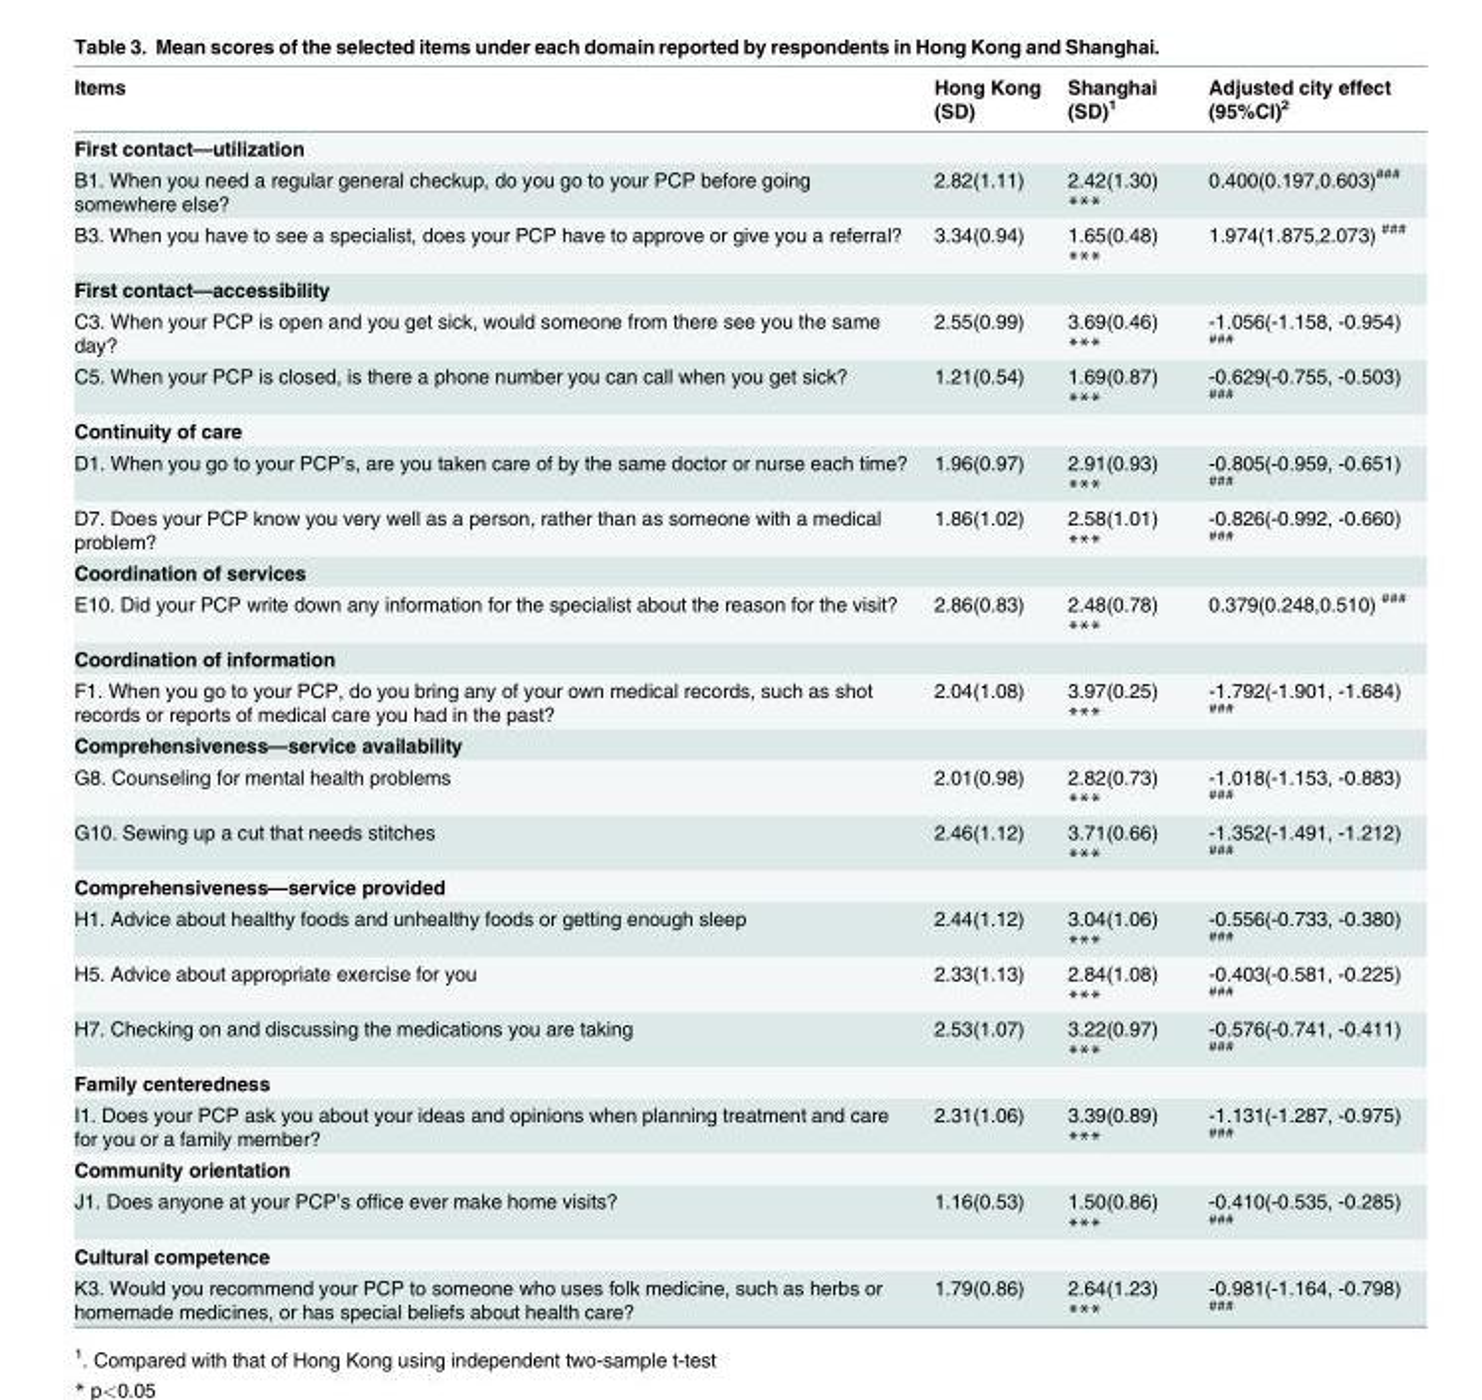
<table><thead><tr><td>Items</td><td>Hong Kong (SD)</td><td>Shanghai (SD)<sup>1</sup></td><td>Adjusted city effect (95%CI)<sup>2</sup></td></tr></thead><tbody><tr><td colspan="4">First contact—utilization</td></tr><tr><td>B1. When you need a regular general checkup, do you go to your PCP before going somewhere else?</td><td>2.82(1.11)</td><td>2.42(1.30) ***</td><td>0.400(0.197,0.603)<sup>###</sup></td></tr><tr><td>B3. When you have to see a specialist, does your PCP have to approve or give you a referral?</td><td>3.34(0.94)</td><td>1.65(0.48) ***</td><td>1.974(1.875,2.073) <sup>###</sup></td></tr><tr><td colspan="4">First contact—accessibility</td></tr><tr><td>C3. When your PCP is open and you get sick, would someone from there see you the same day?</td><td>2.55(0.99)</td><td>3.69(0.46) ***</td><td>-1.056(-1.158, -0.954) <sup>###</sup></td></tr><tr><td>C5. When your PCP is closed, is there a phone number you can call when you get sick?</td><td>1.21(0.54)</td><td>1.69(0.87) ***</td><td>-0.629(-0.755, -0.503) <sup>###</sup></td></tr><tr><td colspan="4">Continuity of care</td></tr><tr><td>D1. When you go to your PCP’s, are you taken care of by the same doctor or nurse each time?</td><td>1.96(0.97)</td><td>2.91(0.93) ***</td><td>-0.805(-0.959, -0.651) <sup>###</sup></td></tr><tr><td>D7. Does your PCP know you very well as a person, rather than as someone with a medical problem?</td><td>1.86(1.02)</td><td>2.58(1.01) ***</td><td>-0.826(-0.992, -0.660) <sup>###</sup></td></tr><tr><td colspan="4">Coordination of services</td></tr><tr><td>E10. Did your PCP write down any information for the specialist about the reason for the visit?</td><td>2.86(0.83)</td><td>2.48(0.78) ***</td><td>0.379(0.248,0.510) <sup>###</sup></td></tr><tr><td colspan="4">Coordination of information</td></tr><tr><td>F1. When you go to your PCP, do you bring any of your own medical records, such as shot records or reports of medical care you had in the past?</td><td>2.04(1.08)</td><td>3.97(0.25) ***</td><td>-1.792(-1.901, -1.684) <sup>###</sup></td></tr><tr><td colspan="4">Comprehensiveness—service availability</td></tr><tr><td>G8. Counseling for mental health problems</td><td>2.01(0.98)</td><td>2.82(0.73) ***</td><td>-1.018(-1.153, -0.883) <sup>###</sup></td></tr><tr><td>G10. Sewing up a cut that needs stitches</td><td>2.46(1.12)</td><td>3.71(0.66) ***</td><td>-1.352(-1.491, -1.212) <sup>###</sup></td></tr><tr><td colspan="4">Comprehensiveness—service provided</td></tr><tr><td>H1. Advice about healthy foods and unhealthy foods or getting enough sleep</td><td>2.44(1.12)</td><td>3.04(1.06) ***</td><td>-0.556(-0.733, -0.380) <sup>###</sup></td></tr><tr><td>H5. Advice about appropriate exercise for you</td><td>2.33(1.13)</td><td>2.84(1.08) ***</td><td>-0.403(-0.581, -0.225) <sup>###</sup></td></tr><tr><td>H7. Checking on and discussing the medications you are taking</td><td>2.53(1.07)</td><td>3.22(0.97) ***</td><td>-0.576(-0.741, -0.411) <sup>###</sup></td></tr><tr><td colspan="4">Family centeredness</td></tr><tr><td>I1. Does your PCP ask you about your ideas and opinions when planning treatment and care for you or a family member?</td><td>2.31(1.06)</td><td>3.39(0.89) ***</td><td>-1.131(-1.287, -0.975) <sup>###</sup></td></tr><tr><td colspan="4">Community orientation</td></tr><tr><td>J1. Does anyone at your PCP’s office ever make home visits?</td><td>1.16(0.53)</td><td>1.50(0.86) ***</td><td>-0.410(-0.535, -0.285) <sup>###</sup></td></tr><tr><td colspan="4">Cultural competence</td></tr><tr><td>K3. Would you recommend your PCP to someone who uses folk medicine, such as herbs or homemade medicines, or has special beliefs about health care?</td><td>1.79(0.86)</td><td>2.64(1.23) ***</td><td>-0.981(-1.164, -0.798) <sup>###</sup></td></tr></tbody></table>